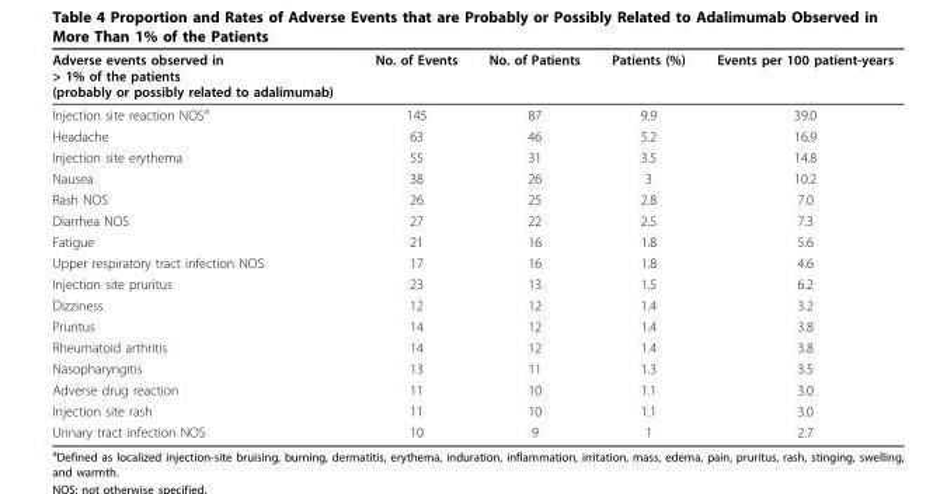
<table><thead><tr><td>Adverse events observed in &gt; 1% of the patients (probably or possibly related to adalimumab)</td><td>No. of Events</td><td>No. of Patients</td><td>Patients (%)</td><td>Events per 100 patient-years</td></tr></thead><tbody><tr><td>Injection site reaction NOS<sup>a</sup></td><td>145</td><td>87</td><td>9.9</td><td>39.0</td></tr><tr><td>Headache</td><td>63</td><td>46</td><td>5.2</td><td>16.9</td></tr><tr><td>Injection site erythema</td><td>55</td><td>31</td><td>3.5</td><td>14.8</td></tr><tr><td>Nausea</td><td>38</td><td>26</td><td>3</td><td>10.2</td></tr><tr><td>Rash NOS</td><td>26</td><td>25</td><td>2.8</td><td>7.0</td></tr><tr><td>Diarrhea NOS</td><td>27</td><td>22</td><td>2.5</td><td>7.3</td></tr><tr><td>Fatigue</td><td>21</td><td>16</td><td>1.8</td><td>5.6</td></tr><tr><td>Upper respiratory tract infection NOS</td><td>17</td><td>16</td><td>1.8</td><td>4.6</td></tr><tr><td>Injection site pruritus</td><td>23</td><td>13</td><td>1.5</td><td>6.2</td></tr><tr><td>Dizziness</td><td>12</td><td>12</td><td>1.4</td><td>3.2</td></tr><tr><td>Pruritus</td><td>14</td><td>12</td><td>1.4</td><td>3.8</td></tr><tr><td>Rheumatoid arthritis</td><td>14</td><td>12</td><td>1.4</td><td>3.8</td></tr><tr><td>Nasopharyngitis</td><td>13</td><td>11</td><td>1.3</td><td>3.5</td></tr><tr><td>Adverse drug reaction</td><td>11</td><td>10</td><td>1.1</td><td>3.0</td></tr><tr><td>Injection site rash</td><td>11</td><td>10</td><td>1.1</td><td>3.0</td></tr><tr><td>Urinary tract infection NOS</td><td>10</td><td>9</td><td>1</td><td>2.7</td></tr></tbody></table>